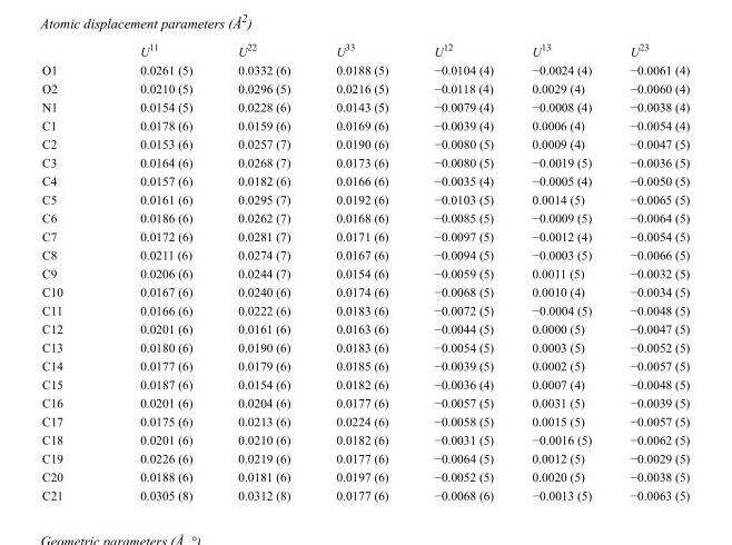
<table><thead><tr><td></td><td>U<sup>11</sup></td><td>U<sup>22</sup></td><td>U<sup>33</sup></td><td>U<sup>12</sup></td><td>U<sup>13</sup></td><td>U<sup>23</sup></td></tr></thead><tbody><tr><td>O1</td><td>0.0261 (5)</td><td>0.0332 (6)</td><td>0.0188 (5)</td><td>−0.0104 (4)</td><td>−0.0024 (4)</td><td>−0.0061 (4)</td></tr><tr><td>O2</td><td>0.0210 (5)</td><td>0.0296 (5)</td><td>0.0216 (5)</td><td>−0.0118 (4)</td><td>0.0029 (4)</td><td>−0.0060 (4)</td></tr><tr><td>N1</td><td>0.0154 (5)</td><td>0.0228 (6)</td><td>0.0143 (5)</td><td>−0.0079 (4)</td><td>−0.0008 (4)</td><td>−0.0038 (4)</td></tr><tr><td>C1</td><td>0.0178 (6)</td><td>0.0159 (6)</td><td>0.0169 (6)</td><td>−0.0039 (4)</td><td>0.0006 (4)</td><td>−0.0054 (4)</td></tr><tr><td>C2</td><td>0.0153 (6)</td><td>0.0257 (7)</td><td>0.0190 (6)</td><td>−0.0080 (5)</td><td>0.0009 (4)</td><td>−0.0047 (5)</td></tr><tr><td>C3</td><td>0.0164 (6)</td><td>0.0268 (7)</td><td>0.0173 (6)</td><td>−0.0080 (5)</td><td>−0.0019 (5)</td><td>−0.0036 (5)</td></tr><tr><td>C4</td><td>0.0157 (6)</td><td>0.0182 (6)</td><td>0.0166 (6)</td><td>−0.0035 (4)</td><td>−0.0005 (4)</td><td>−0.0050 (5)</td></tr><tr><td>C5</td><td>0.0161 (6)</td><td>0.0295 (7)</td><td>0.0192 (6)</td><td>−0.0103 (5)</td><td>0.0014 (5)</td><td>−0.0065 (5)</td></tr><tr><td>C6</td><td>0.0186 (6)</td><td>0.0262 (7)</td><td>0.0168 (6)</td><td>−0.0085 (5)</td><td>−0.0009 (5)</td><td>−0.0064 (5)</td></tr><tr><td>C7</td><td>0.0172 (6)</td><td>0.0281 (7)</td><td>0.0171 (6)</td><td>−0.0097 (5)</td><td>−0.0012 (4)</td><td>−0.0054 (5)</td></tr><tr><td>C8</td><td>0.0211 (6)</td><td>0.0274 (7)</td><td>0.0167 (6)</td><td>−0.0094 (5)</td><td>−0.0003 (5)</td><td>−0.0066 (5)</td></tr><tr><td>C9</td><td>0.0206 (6)</td><td>0.0244 (7)</td><td>0.0154 (6)</td><td>−0.0059 (5)</td><td>0.0011 (5)</td><td>−0.0032 (5)</td></tr><tr><td>C10</td><td>0.0167 (6)</td><td>0.0240 (6)</td><td>0.0174 (6)</td><td>−0.0068 (5)</td><td>0.0010 (4)</td><td>−0.0034 (5)</td></tr><tr><td>C11</td><td>0.0166 (6)</td><td>0.0222 (6)</td><td>0.0183 (6)</td><td>−0.0072 (5)</td><td>−0.0004 (5)</td><td>−0.0048 (5)</td></tr><tr><td>C12</td><td>0.0201 (6)</td><td>0.0161 (6)</td><td>0.0163 (6)</td><td>−0.0044 (5)</td><td>0.0000 (5)</td><td>−0.0047 (5)</td></tr><tr><td>C13</td><td>0.0180 (6)</td><td>0.0190 (6)</td><td>0.0183 (6)</td><td>−0.0054 (5)</td><td>0.0003 (5)</td><td>−0.0052 (5)</td></tr><tr><td>C14</td><td>0.0177 (6)</td><td>0.0179 (6)</td><td>0.0185 (6)</td><td>−0.0039 (5)</td><td>0.0002 (5)</td><td>−0.0057 (5)</td></tr><tr><td>C15</td><td>0.0187 (6)</td><td>0.0154 (6)</td><td>0.0182 (6)</td><td>−0.0036 (4)</td><td>0.0007 (4)</td><td>−0.0048 (5)</td></tr><tr><td>C16</td><td>0.0201 (6)</td><td>0.0204 (6)</td><td>0.0177 (6)</td><td>−0.0057 (5)</td><td>0.0031 (5)</td><td>−0.0039 (5)</td></tr><tr><td>C17</td><td>0.0175 (6)</td><td>0.0213 (6)</td><td>0.0224 (6)</td><td>−0.0058 (5)</td><td>0.0015 (5)</td><td>−0.0057 (5)</td></tr><tr><td>C18</td><td>0.0201 (6)</td><td>0.0210 (6)</td><td>0.0182 (6)</td><td>−0.0031 (5)</td><td>−0.0016 (5)</td><td>−0.0062 (5)</td></tr><tr><td>C19</td><td>0.0226 (6)</td><td>0.0219 (6)</td><td>0.0177 (6)</td><td>−0.0064 (5)</td><td>0.0012 (5)</td><td>−0.0029 (5)</td></tr><tr><td>C20</td><td>0.0188 (6)</td><td>0.0181 (6)</td><td>0.0197 (6)</td><td>−0.0052 (5)</td><td>0.0020 (5)</td><td>−0.0038 (5)</td></tr><tr><td>C21</td><td>0.0305 (8)</td><td>0.0312 (8)</td><td>0.0177 (6)</td><td>−0.0068 (6)</td><td>−0.0013 (5)</td><td>−0.0063 (5)</td></tr></tbody></table>